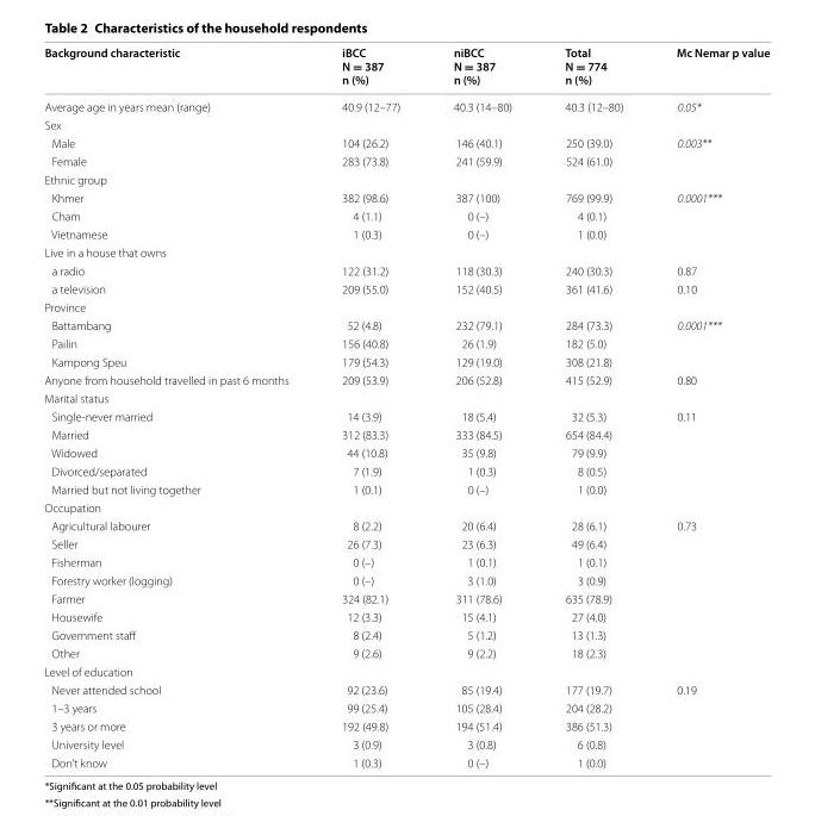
<table><thead><tr><td>Background characteristic</td><td>iBCC N = 387 n (%)</td><td>niBCC N = 387 n (%)</td><td>Total N = 774 n (%)</td><td>Mc Nemar p value</td></tr></thead><tbody><tr><td>Average age in years mean (range)</td><td>40.9 (12–77)</td><td>40.3 (14–80)</td><td>40.3 (12–80)</td><td>0.05*</td></tr><tr><td colspan="5">Sex</td></tr><tr><td>Male</td><td>104 (26.2)</td><td>146 (40.1)</td><td>250 (39.0)</td><td rowspan="2">0.003**</td></tr><tr><td>Female</td><td>283 (73.8)</td><td>241 (59.9)</td><td>524 (61.0)</td></tr><tr><td colspan="5">Ethnic group</td></tr><tr><td>Khmer</td><td>382 (98.6)</td><td>387 (100)</td><td>769 (99.9)</td><td rowspan="3">0.0001***</td></tr><tr><td>Cham</td><td>4 (1.1)</td><td>0 (–)</td><td>4 (0.1)</td></tr><tr><td>Vietnamese</td><td>1 (0.3)</td><td>0 (–)</td><td>1 (0.0)</td></tr><tr><td colspan="5">Live in a house that owns</td></tr><tr><td>a radio</td><td>122 (31.2)</td><td>118 (30.3)</td><td>240 (30.3)</td><td>0.87</td></tr><tr><td>a television</td><td>209 (55.0)</td><td>152 (40.5)</td><td>361 (41.6)</td><td>0.10</td></tr><tr><td colspan="5">Province</td></tr><tr><td>Battambang</td><td>52 (4.8)</td><td>232 (79.1)</td><td>284 (73.3)</td><td rowspan="3">0.0001***</td></tr><tr><td>Pailin</td><td>156 (40.8)</td><td>26 (1.9)</td><td>182 (5.0)</td></tr><tr><td>Kampong Speu</td><td>179 (54.3)</td><td>129 (19.0)</td><td>308 (21.8)</td></tr><tr><td>Anyone from household travelled in past 6 months</td><td>209 (53.9)</td><td>206 (52.8)</td><td>415 (52.9)</td><td>0.80</td></tr><tr><td colspan="5">Marital status</td></tr><tr><td>Single‑never married</td><td>14 (3.9)</td><td>18 (5.4)</td><td>32 (5.3)</td><td rowspan="5">0.11</td></tr><tr><td>Married</td><td>312 (83.3)</td><td>333 (84.5)</td><td>654 (84.4)</td></tr><tr><td>Widowed</td><td>44 (10.8)</td><td>35 (9.8)</td><td>79 (9.9)</td></tr><tr><td>Divorced/separated</td><td>7 (1.9)</td><td>1 (0.3)</td><td>8 (0.5)</td></tr><tr><td>Married but not living together</td><td>1 (0.1)</td><td>0 (–)</td><td>1 (0.0)</td></tr><tr><td colspan="5">Occupation</td></tr><tr><td>Agricultural labourer</td><td>8 (2.2)</td><td>20 (6.4)</td><td>28 (6.1)</td><td rowspan="8">0.73</td></tr><tr><td>Seller</td><td>26 (7.3)</td><td>23 (6.3)</td><td>49 (6.4)</td></tr><tr><td>Fisherman</td><td>0 (–)</td><td>1 (0.1)</td><td>1 (0.1)</td></tr><tr><td>Forestry worker (logging)</td><td>0 (–)</td><td>3 (1.0)</td><td>3 (0.9)</td></tr><tr><td>Farmer</td><td>324 (82.1)</td><td>311 (78.6)</td><td>635 (78.9)</td></tr><tr><td>Housewife</td><td>12 (3.3)</td><td>15 (4.1)</td><td>27 (4.0)</td></tr><tr><td>Government staff</td><td>8 (2.4)</td><td>5 (1.2)</td><td>13 (1.3)</td></tr><tr><td>Other</td><td>9 (2.6)</td><td>9 (2.2)</td><td>18 (2.3)</td></tr><tr><td colspan="5">Level of education</td></tr><tr><td>Never attended school</td><td>92 (23.6)</td><td>85 (19.4)</td><td>177 (19.7)</td><td rowspan="5">0.19</td></tr><tr><td>1–3 years</td><td>99 (25.4)</td><td>105 (28.4)</td><td>204 (28.2)</td></tr><tr><td>3 years or more</td><td>192 (49.8)</td><td>194 (51.4)</td><td>386 (51.3)</td></tr><tr><td>University level</td><td>3 (0.9)</td><td>3 (0.8)</td><td>6 (0.8)</td></tr><tr><td>Don’t know</td><td>1 (0.3)</td><td>0 (–)</td><td>1 (0.0)</td></tr></tbody></table>